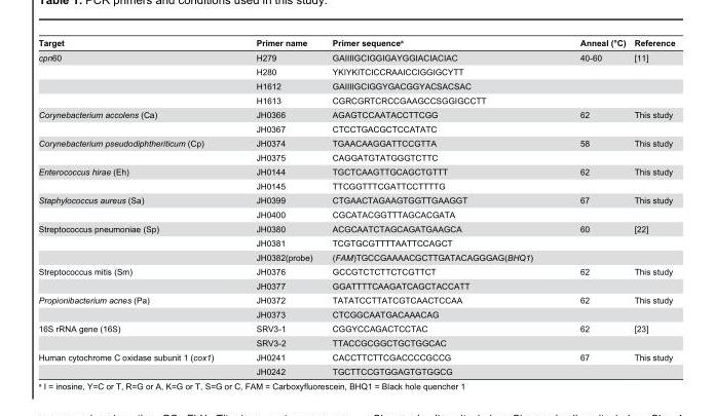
<table><thead><tr><td>Target</td><td>Primer name</td><td>Primer sequence<sup>a</sup></td><td>Anneal (°C)</td><td>Reference</td></tr></thead><tbody><tr><td rowspan="4">cpn60</td><td>H279</td><td>GAIIIIGCIGGIGAYGGIACIACIAC</td><td>40-60</td><td>[11]</td></tr><tr><td>H280</td><td>YKIYKITCICCRAAICCIGGIGCYTT</td><td></td><td></td></tr><tr><td>H1612</td><td>GAIIIIGCIGGYGACGGYACSACSAC</td><td></td><td></td></tr><tr><td>H1613</td><td>CGRCGRTCRCCGAAGCCSGGIGCCTT</td><td></td><td></td></tr><tr><td rowspan="2">Corynebacterium accolens (Ca)</td><td>JH0366</td><td>AGAGTCCAATACCTTCGG</td><td>62</td><td>This study</td></tr><tr><td>JH0367</td><td>CTCCTGACGCTCCATATC</td><td></td><td></td></tr><tr><td rowspan="2">Corynebacterium pseudodiphtheriticum (Cp)</td><td>JH0374</td><td>TGAACAAGGATTCCGTTA</td><td>58</td><td>This study</td></tr><tr><td>JH0375</td><td>CAGGATGTATGGGTCTTC</td><td></td><td></td></tr><tr><td rowspan="2">Enterococcus hirae (Eh)</td><td>JH0144</td><td>TGCTCAAGTTGCAGCTGTTT</td><td>62</td><td>This study</td></tr><tr><td>JH0145</td><td>TTCGGTTTCGATTCCTTTTG</td><td></td><td></td></tr><tr><td rowspan="2">Staphylococcus aureus (Sa)</td><td>JH0399</td><td>CTGAACTAGAAGTGGTTGAAGGT</td><td>67</td><td>This study</td></tr><tr><td>JH0400</td><td>CGCATACGGTTTAGCACGATA</td><td></td><td></td></tr><tr><td rowspan="3">Streptococcus pneumoniae (Sp)</td><td>JH0380</td><td>ACGCAATCTAGCAGATGAAGCA</td><td>60</td><td>[22]</td></tr><tr><td>JH0381</td><td>TCGTGCGTTTTAATTCCAGCT</td><td></td><td></td></tr><tr><td>JH0382(probe)</td><td>(FAM)TGCCGAAAACGCTTGATACAGGGAG(BHQ1)</td><td></td><td></td></tr><tr><td rowspan="2">Streptococcus mitis (Sm)</td><td>JH0376</td><td>GCCGTCTCTTCTCGTTCT</td><td>62</td><td>This study</td></tr><tr><td>JH0377</td><td>GGATTTTCAAGATCAGCTACCATT</td><td></td><td></td></tr><tr><td rowspan="2">Propionibacterium acnes (Pa)</td><td>JH0372</td><td>TATATCCTTATCGTCAACTCCAA</td><td>62</td><td>This study</td></tr><tr><td>JH0373</td><td>CTCGGCAATGACAAACAG</td><td></td><td></td></tr><tr><td rowspan="2">16S rRNA gene (16S)</td><td>SRV3-1</td><td>CGGYCCAGACTCCTAC</td><td>62</td><td>[23]</td></tr><tr><td>SRV3-2</td><td>TTACCGCGGCTGCTGGCAC</td><td></td><td></td></tr><tr><td rowspan="2">Human cytochrome C oxidase subunit 1 (cox1)</td><td>JH0241</td><td>CACCTTCTTCGACCCCGCCG</td><td>67</td><td>This study</td></tr><tr><td>JH0242</td><td>TGCTTCCGTGGAGTGTGGCG</td><td></td><td></td></tr></tbody></table>